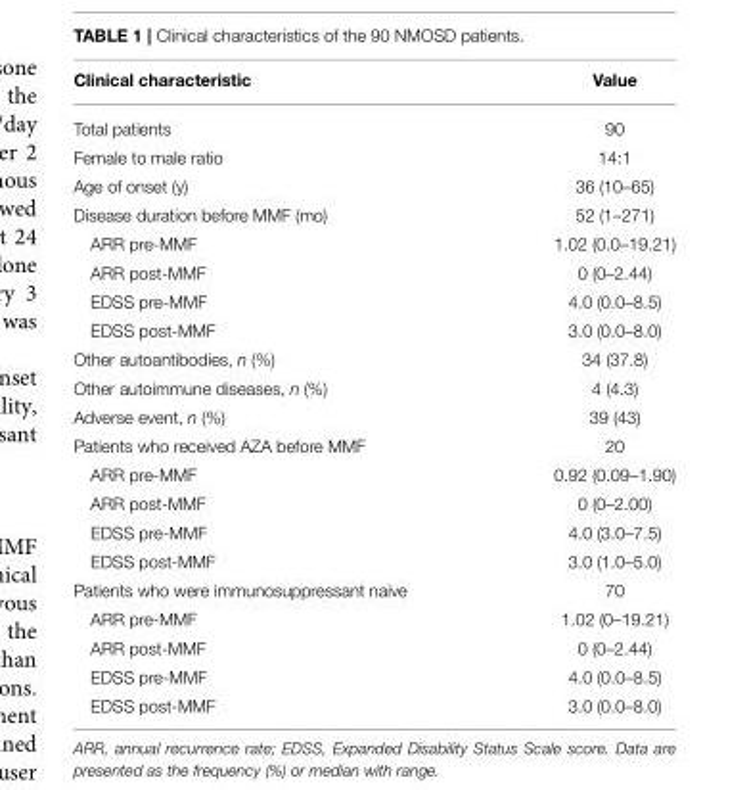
<table><thead><tr><td>Clinical characteristic</td><td>Value</td></tr></thead><tbody><tr><td>Total patients</td><td>90</td></tr><tr><td>Female to male ratio</td><td>14:1</td></tr><tr><td>Age of onset (y)</td><td>36 (10–65)</td></tr><tr><td>Disease duration before MMF (mo)</td><td>52 (1–271)</td></tr><tr><td>ARR pre-MMF</td><td>1.02 (0.0–19.21)</td></tr><tr><td>ARR post-MMF</td><td>0 (0–2.44)</td></tr><tr><td>EDSS pre-MMF</td><td>4.0 (0.0–8.5)</td></tr><tr><td>EDSS post-MMF</td><td>3.0 (0.0–8.0)</td></tr><tr><td>Other autoantibodies, n (%)</td><td>34 (37.8)</td></tr><tr><td>Other autoimmune diseases, n (%)</td><td>4 (4.3)</td></tr><tr><td>Adverse event, n (%)</td><td>39 (43)</td></tr><tr><td>Patients who received AZA before MMF</td><td>20</td></tr><tr><td>ARR pre-MMF</td><td>0.92 (0.09–1.90)</td></tr><tr><td>ARR post-MMF</td><td>0 (0–2.00)</td></tr><tr><td>EDSS pre-MMF</td><td>4.0 (3.0–7.5)</td></tr><tr><td>EDSS post-MMF</td><td>3.0 (1.0–5.0)</td></tr><tr><td>Patients who were immunosuppressant naive</td><td>70</td></tr><tr><td>ARR pre-MMF</td><td>1.02 (0–19.21)</td></tr><tr><td>ARR post-MMF</td><td>0 (0–2.44)</td></tr><tr><td>EDSS pre-MMF</td><td>4.0 (0.0–8.5)</td></tr><tr><td>EDSS post-MMF</td><td>3.0 (0.0–8.0)</td></tr></tbody></table>